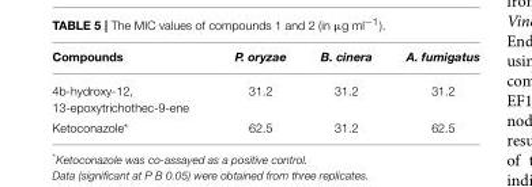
<table><thead><tr><td>Compounds</td><td>P. oryzae</td><td>B. cinera</td><td>A. fumigatus</td></tr></thead><tbody><tr><td>4b-hydroxy-12, 13-epoxytrichothec-9-ene</td><td>31.2</td><td>31.2</td><td>31.2</td></tr><tr><td>Ketoconazole*</td><td>62.5</td><td>31.2</td><td>62.5</td></tr></tbody></table>